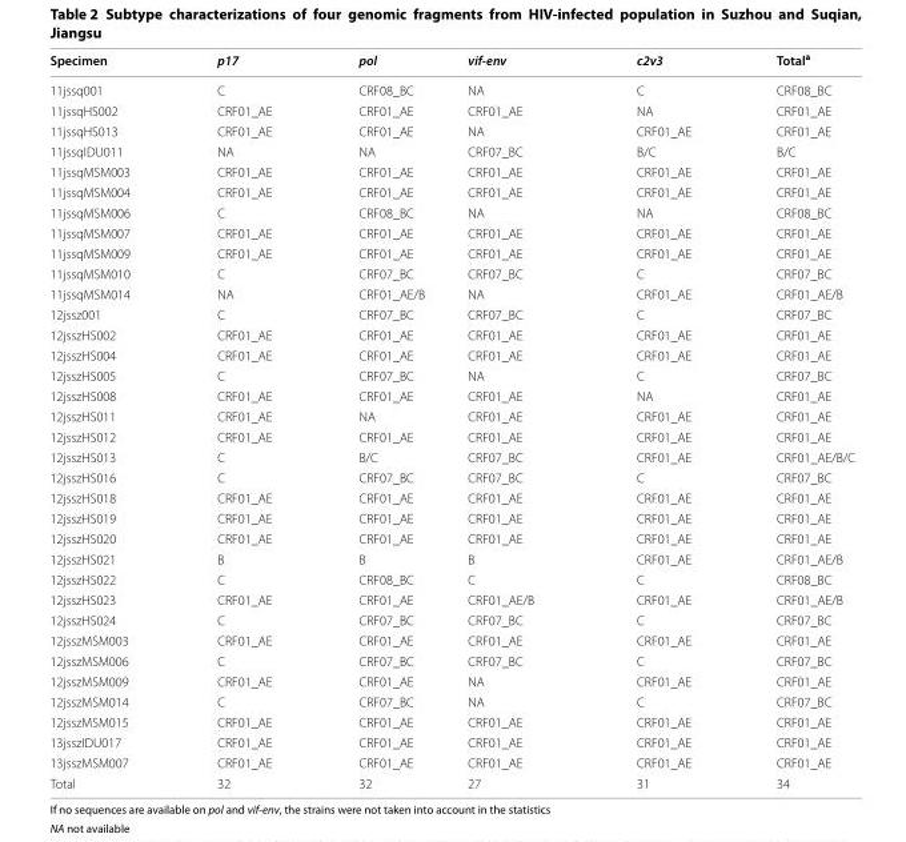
<table><thead><tr><td>Specimen</td><td>p17</td><td>pol</td><td>vif‑env</td><td>c2v3</td><td>Total<sup>a</sup></td></tr></thead><tbody><tr><td>11jssq001</td><td>C</td><td>CRF08_BC</td><td>NA</td><td>C</td><td>CRF08_BC</td></tr><tr><td>11jssqHS002</td><td>CRF01_AE</td><td>CRF01_AE</td><td>CRF01_AE</td><td>NA</td><td>CRF01_AE</td></tr><tr><td>11jssqHS013</td><td>CRF01_AE</td><td>CRF01_AE</td><td>NA</td><td>CRF01_AE</td><td>CRF01_AE</td></tr><tr><td>11jssqIDU011</td><td>NA</td><td>NA</td><td>CRF07_BC</td><td>B/C</td><td>B/C</td></tr><tr><td>11jssqMSM003</td><td>CRF01_AE</td><td>CRF01_AE</td><td>CRF01_AE</td><td>CRF01_AE</td><td>CRF01_AE</td></tr><tr><td>11jssqMSM004</td><td>CRF01_AE</td><td>CRF01_AE</td><td>CRF01_AE</td><td>CRF01_AE</td><td>CRF01_AE</td></tr><tr><td>11jssqMSM006</td><td>C</td><td>CRF08_BC</td><td>NA</td><td>NA</td><td>CRF08_BC</td></tr><tr><td>11jssqMSM007</td><td>CRF01_AE</td><td>CRF01_AE</td><td>CRF01_AE</td><td>CRF01_AE</td><td>CRF01_AE</td></tr><tr><td>11jssqMSM009</td><td>CRF01_AE</td><td>CRF01_AE</td><td>CRF01_AE</td><td>CRF01_AE</td><td>CRF01_AE</td></tr><tr><td>11jssqMSM010</td><td>C</td><td>CRF07_BC</td><td>CRF07_BC</td><td>C</td><td>CRF07_BC</td></tr><tr><td>11jssqMSM014</td><td>NA</td><td>CRF01_AE/B</td><td>NA</td><td>CRF01_AE</td><td>CRF01_AE/B</td></tr><tr><td>12jssz001</td><td>C</td><td>CRF07_BC</td><td>CRF07_BC</td><td>C</td><td>CRF07_BC</td></tr><tr><td>12jsszHS002</td><td>CRF01_AE</td><td>CRF01_AE</td><td>CRF01_AE</td><td>CRF01_AE</td><td>CRF01_AE</td></tr><tr><td>12jsszHS004</td><td>CRF01_AE</td><td>CRF01_AE</td><td>CRF01_AE</td><td>CRF01_AE</td><td>CRF01_AE</td></tr><tr><td>12jsszHS005</td><td>C</td><td>CRF07_BC</td><td>NA</td><td>C</td><td>CRF07_BC</td></tr><tr><td>12jsszHS008</td><td>CRF01_AE</td><td>CRF01_AE</td><td>CRF01_AE</td><td>NA</td><td>CRF01_AE</td></tr><tr><td>12jsszHS011</td><td>CRF01_AE</td><td>NA</td><td>CRF01_AE</td><td>CRF01_AE</td><td>CRF01_AE</td></tr><tr><td>12jsszHS012</td><td>CRF01_AE</td><td>CRF01_AE</td><td>CRF01_AE</td><td>CRF01_AE</td><td>CRF01_AE</td></tr><tr><td>12jsszHS013</td><td>C</td><td>B/C</td><td>CRF07_BC</td><td>CRF01_AE</td><td>CRF01_AE/B/C</td></tr><tr><td>12jsszHS016</td><td>C</td><td>CRF07_BC</td><td>CRF07_BC</td><td>C</td><td>CRF07_BC</td></tr><tr><td>12jsszHS018</td><td>CRF01_AE</td><td>CRF01_AE</td><td>CRF01_AE</td><td>CRF01_AE</td><td>CRF01_AE</td></tr><tr><td>12jsszHS019</td><td>CRF01_AE</td><td>CRF01_AE</td><td>CRF01_AE</td><td>CRF01_AE</td><td>CRF01_AE</td></tr><tr><td>12jsszHS020</td><td>CRF01_AE</td><td>CRF01_AE</td><td>CRF01_AE</td><td>CRF01_AE</td><td>CRF01_AE</td></tr><tr><td>12jsszHS021</td><td>B</td><td>B</td><td>B</td><td>CRF01_AE</td><td>CRF01_AE/B</td></tr><tr><td>12jsszHS022</td><td>C</td><td>CRF08_BC</td><td>C</td><td>C</td><td>CRF08_BC</td></tr><tr><td>12jsszHS023</td><td>CRF01_AE</td><td>CRF01_AE</td><td>CRF01_AE/B</td><td>CRF01_AE</td><td>CRF01_AE/B</td></tr><tr><td>12jsszHS024</td><td>C</td><td>CRF07_BC</td><td>CRF07_BC</td><td>C</td><td>CRF07_BC</td></tr><tr><td>12jsszMSM003</td><td>CRF01_AE</td><td>CRF01_AE</td><td>CRF01_AE</td><td>CRF01_AE</td><td>CRF01_AE</td></tr><tr><td>12jsszMSM006</td><td>C</td><td>CRF07_BC</td><td>CRF07_BC</td><td>C</td><td>CRF07_BC</td></tr><tr><td>12jsszMSM009</td><td>CRF01_AE</td><td>CRF01_AE</td><td>NA</td><td>CRF01_AE</td><td>CRF01_AE</td></tr><tr><td>12jsszMSM014</td><td>C</td><td>CRF07_BC</td><td>NA</td><td>C</td><td>CRF07_BC</td></tr><tr><td>12jsszMSM015</td><td>CRF01_AE</td><td>CRF01_AE</td><td>CRF01_AE</td><td>CRF01_AE</td><td>CRF01_AE</td></tr><tr><td>13jsszIDU017</td><td>CRF01_AE</td><td>CRF01_AE</td><td>CRF01_AE</td><td>CRF01_AE</td><td>CRF01_AE</td></tr><tr><td>13jsszMSM007</td><td>CRF01_AE</td><td>CRF01_AE</td><td>CRF01_AE</td><td>CRF01_AE</td><td>CRF01_AE</td></tr><tr><td>Total</td><td>32</td><td>32</td><td>27</td><td>31</td><td>34</td></tr></tbody></table>